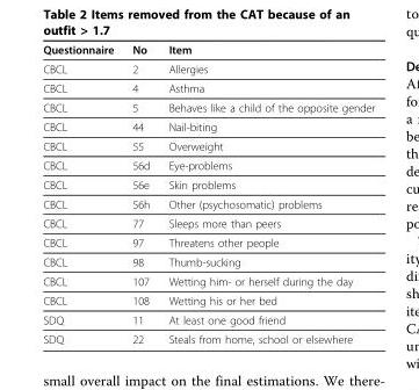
<table><thead><tr><td>Questionnaire</td><td>No</td><td>Item</td></tr></thead><tbody><tr><td>CBCL</td><td>2</td><td>Allergies</td></tr><tr><td>CBCL</td><td>4</td><td>Asthma</td></tr><tr><td>CBCL</td><td>5</td><td>Behaves like a child of the opposite gender</td></tr><tr><td>CBCL</td><td>44</td><td>Nail-biting</td></tr><tr><td>CBCL</td><td>55</td><td>Overweight</td></tr><tr><td>CBCL</td><td>56d</td><td>Eye-problems</td></tr><tr><td>CBCL</td><td>56e</td><td>Skin problems</td></tr><tr><td>CBCL</td><td>56h</td><td>Other (psychosomatic) problems</td></tr><tr><td>CBCL</td><td>77</td><td>Sleeps more than peers</td></tr><tr><td>CBCL</td><td>97</td><td>Threatens other people</td></tr><tr><td>CBCL</td><td>98</td><td>Thumb-sucking</td></tr><tr><td>CBCL</td><td>107</td><td>Wetting him- or herself during the day</td></tr><tr><td>CBCL</td><td>108</td><td>Wetting his or her bed</td></tr><tr><td>SDQ</td><td>11</td><td>At least one good friend</td></tr><tr><td>SDQ</td><td>22</td><td>Steals from home, school or elsewhere</td></tr></tbody></table>